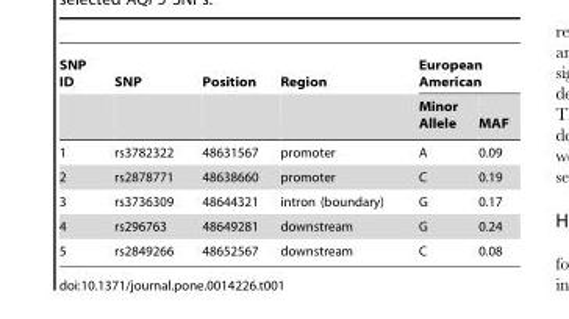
<table><thead><tr><td rowspan="2">SNP ID</td><td rowspan="2">SNP</td><td rowspan="2">Position</td><td rowspan="2">Region</td><td colspan="2">European American</td></tr><tr><td>Minor Allele</td><td>MAF</td></tr></thead><tbody><tr><td>1</td><td>rs3782322</td><td>48631567</td><td>promoter</td><td>A</td><td>0.09</td></tr><tr><td>2</td><td>rs2878771</td><td>48638660</td><td>promoter</td><td>C</td><td>0.19</td></tr><tr><td>3</td><td>rs3736309</td><td>48644321</td><td>intron (boundary)</td><td>G</td><td>0.17</td></tr><tr><td>4</td><td>rs296763</td><td>48649281</td><td>downstream</td><td>G</td><td>0.24</td></tr><tr><td>5</td><td>rs2849266</td><td>48652567</td><td>downstream</td><td>C</td><td>0.08</td></tr></tbody></table>